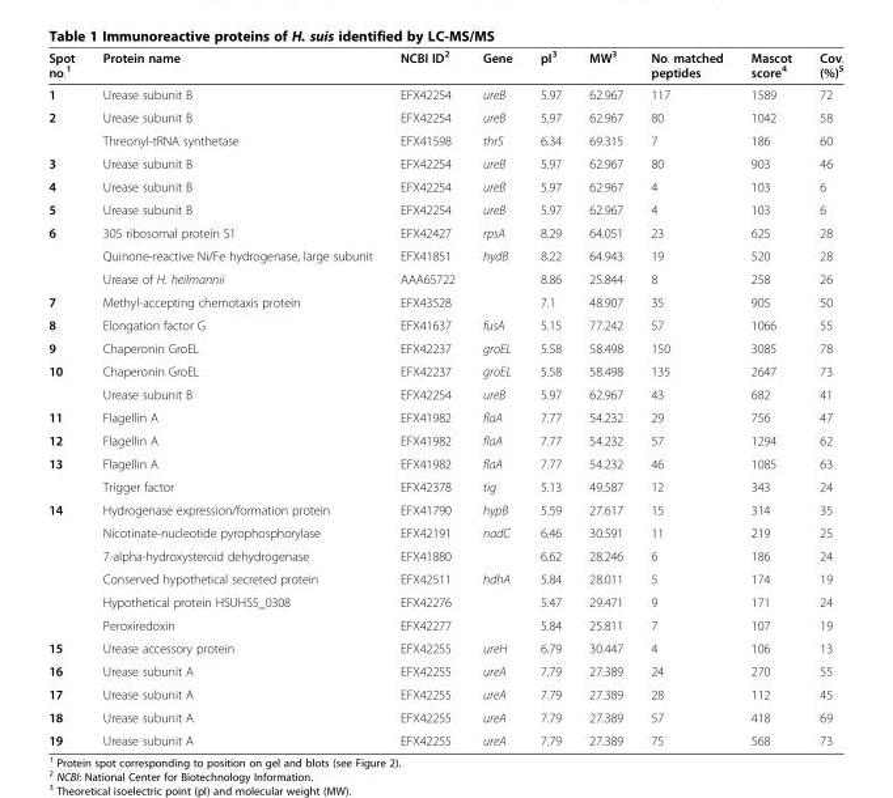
<table><thead><tr><td>Spot no.<sup>1</sup></td><td>Protein name</td><td>NCBI ID<sup>2</sup></td><td>Gene</td><td>pI<sup>3</sup></td><td>MW<sup>3</sup></td><td>No. matched peptides</td><td>Mascot score<sup>4</sup></td><td>Cov. (%)<sup>5</sup></td></tr></thead><tbody><tr><td>1</td><td>Urease subunit B</td><td>EFX42254</td><td>ureB</td><td>5.97</td><td>62.967</td><td>117</td><td>1589</td><td>72</td></tr><tr><td rowspan="2">2</td><td>Urease subunit B</td><td>EFX42254</td><td>ureB</td><td>5.97</td><td>62.967</td><td>80</td><td>1042</td><td>58</td></tr><tr><td>Threonyl-tRNA synthetase</td><td>EFX41598</td><td>thrS</td><td>6.34</td><td>69.315</td><td>7</td><td>186</td><td>60</td></tr><tr><td>3</td><td>Urease subunit B</td><td>EFX42254</td><td>ureB</td><td>5.97</td><td>62.967</td><td>80</td><td>903</td><td>46</td></tr><tr><td>4</td><td>Urease subunit B</td><td>EFX42254</td><td>ureB</td><td>5.97</td><td>62.967</td><td>4</td><td>103</td><td>6</td></tr><tr><td>5</td><td>Urease subunit B</td><td>EFX42254</td><td>ureB</td><td>5.97</td><td>62.967</td><td>4</td><td>103</td><td>6</td></tr><tr><td rowspan="3">6</td><td>30S ribosomal protein S1</td><td>EFX42427</td><td>rpsA</td><td>8.29</td><td>64.051</td><td>23</td><td>625</td><td>28</td></tr><tr><td>Quinone-reactive Ni/Fe hydrogenase, large subunit</td><td>EFX41851</td><td>hydB</td><td>8.22</td><td>64.943</td><td>19</td><td>520</td><td>28</td></tr><tr><td>Urease of H. heilmannii</td><td>AAA65722</td><td></td><td>8.86</td><td>25.844</td><td>8</td><td>258</td><td>26</td></tr><tr><td>7</td><td>Methyl-accepting chemotaxis protein</td><td>EFX43528</td><td></td><td>7.1</td><td>48.907</td><td>35</td><td>905</td><td>50</td></tr><tr><td>8</td><td>Elongation factor G</td><td>EFX41637</td><td>fusA</td><td>5.15</td><td>77.242</td><td>57</td><td>1066</td><td>55</td></tr><tr><td>9</td><td>Chaperonin GroEL</td><td>EFX42237</td><td>groEL</td><td>5.58</td><td>58.498</td><td>150</td><td>3085</td><td>78</td></tr><tr><td rowspan="2">10</td><td>Chaperonin GroEL</td><td>EFX42237</td><td>groEL</td><td>5.58</td><td>58.498</td><td>135</td><td>2647</td><td>73</td></tr><tr><td>Urease subunit B</td><td>EFX42254</td><td>ureB</td><td>5.97</td><td>62.967</td><td>43</td><td>682</td><td>41</td></tr><tr><td>11</td><td>Flagellin A</td><td>EFX41982</td><td>flaA</td><td>7.77</td><td>54.232</td><td>29</td><td>756</td><td>47</td></tr><tr><td>12</td><td>Flagellin A</td><td>EFX41982</td><td>flaA</td><td>7.77</td><td>54.232</td><td>57</td><td>1294</td><td>62</td></tr><tr><td rowspan="2">13</td><td>Flagellin A</td><td>EFX41982</td><td>flaA</td><td>7.77</td><td>54.232</td><td>46</td><td>1085</td><td>63</td></tr><tr><td>Trigger factor</td><td>EFX42378</td><td>tig</td><td>5.13</td><td>49.587</td><td>12</td><td>343</td><td>24</td></tr><tr><td rowspan="6">14</td><td>Hydrogenase expression/formation protein</td><td>EFX41790</td><td>hypB</td><td>5.59</td><td>27.617</td><td>15</td><td>314</td><td>35</td></tr><tr><td>Nicotinate-nucleotide pyrophosphorylase</td><td>EFX42191</td><td>nadC</td><td>6.46</td><td>30.591</td><td>11</td><td>219</td><td>25</td></tr><tr><td>7-alpha-hydroxysteroid dehydrogenase</td><td>EFX41880</td><td></td><td>6.62</td><td>28.246</td><td>6</td><td>186</td><td>24</td></tr><tr><td>Conserved hypothetical secreted protein</td><td>EFX42511</td><td>hdhA</td><td>5.84</td><td>28.011</td><td>5</td><td>174</td><td>19</td></tr><tr><td>Hypothetical protein HSUHS5_0308</td><td>EFX42276</td><td></td><td>5.47</td><td>29.471</td><td>9</td><td>171</td><td>24</td></tr><tr><td>Peroxiredoxin</td><td>EFX42277</td><td></td><td>5.84</td><td>25.811</td><td>7</td><td>107</td><td>19</td></tr><tr><td>15</td><td>Urease accessory protein</td><td>EFX42255</td><td>ureH</td><td>6.79</td><td>30.447</td><td>4</td><td>106</td><td>13</td></tr><tr><td>16</td><td>Urease subunit A</td><td>EFX42255</td><td>ureA</td><td>7.79</td><td>27.389</td><td>24</td><td>270</td><td>55</td></tr><tr><td>17</td><td>Urease subunit A</td><td>EFX42255</td><td>ureA</td><td>7.79</td><td>27.389</td><td>28</td><td>112</td><td>45</td></tr><tr><td>18</td><td>Urease subunit A</td><td>EFX42255</td><td>ureA</td><td>7.79</td><td>27.389</td><td>57</td><td>418</td><td>69</td></tr><tr><td>19</td><td>Urease subunit A</td><td>EFX42255</td><td>ureA</td><td>7.79</td><td>27.389</td><td>75</td><td>568</td><td>73</td></tr></tbody></table>